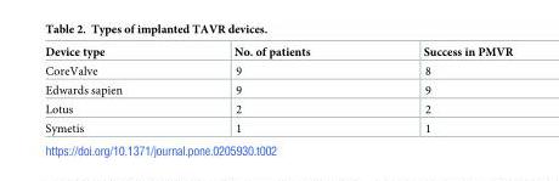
<table><thead><tr><td>Device type</td><td>No. of patients</td><td>Success in PMVR</td></tr></thead><tbody><tr><td>CoreValve</td><td>9</td><td>8</td></tr><tr><td>Edwards sapien</td><td>9</td><td>9</td></tr><tr><td>Lotus</td><td>2</td><td>2</td></tr><tr><td>Symetis</td><td>1</td><td>1</td></tr></tbody></table>